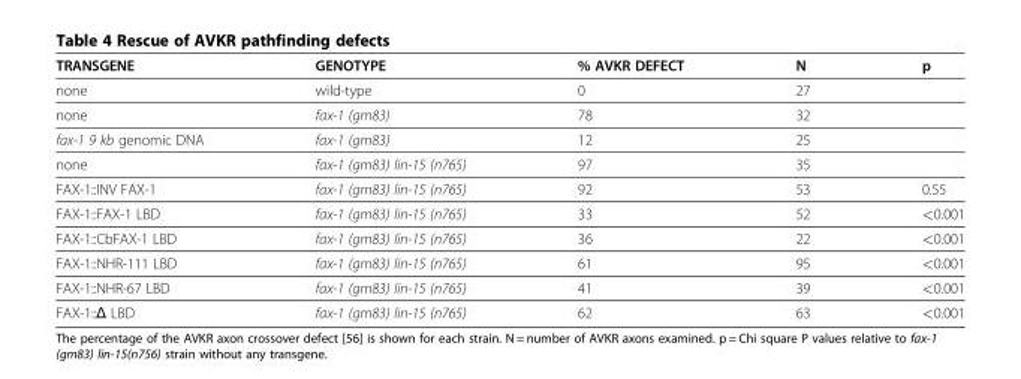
<table><thead><tr><td>TRANSGENE</td><td>GENOTYPE</td><td>% AVKR DEFECT</td><td>N</td><td>p</td></tr></thead><tbody><tr><td>none</td><td>wild-type</td><td>0</td><td>27</td><td></td></tr><tr><td>none</td><td>fax-1 (gm83)</td><td>78</td><td>32</td><td></td></tr><tr><td>fax-1 9 kb genomic DNA</td><td>fax-1 (gm83)</td><td>12</td><td>25</td><td></td></tr><tr><td>none</td><td>fax-1 (gm83) lin-15 (n765)</td><td>97</td><td>35</td><td></td></tr><tr><td>FAX-1::INV FAX-1</td><td>fax-1 (gm83) lin-15 (n765)</td><td>92</td><td>53</td><td>0.55</td></tr><tr><td>FAX-1::FAX-1 LBD</td><td>fax-1 (gm83) lin-15 (n765)</td><td>33</td><td>52</td><td>&lt;0.001</td></tr><tr><td>FAX-1::CbFAX-1 LBD</td><td>fax-1 (gm83) lin-15 (n765)</td><td>36</td><td>22</td><td>&lt;0.001</td></tr><tr><td>FAX-1::NHR-111 LBD</td><td>fax-1 (gm83) lin-15 (n765)</td><td>61</td><td>95</td><td>&lt;0.001</td></tr><tr><td>FAX-1::NHR-67 LBD</td><td>fax-1 (gm83) lin-15 (n765)</td><td>41</td><td>39</td><td>&lt;0.001</td></tr><tr><td>FAX-1::Δ LBD</td><td>fax-1 (gm83) lin-15 (n765)</td><td>62</td><td>63</td><td>&lt;0.001</td></tr></tbody></table>